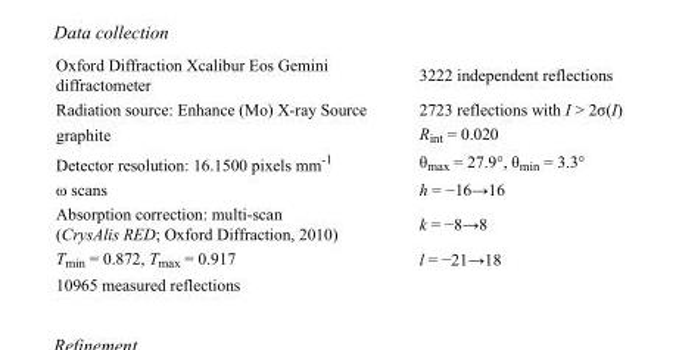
<table><tbody><tr><td>Oxford Diffraction Xcalibur Eos Gemini diffractometer</td><td>3222 independent reflections</td></tr><tr><td>Radiation source: Enhance (Mo) X-ray Source</td><td>2723 reflections with I &gt; 2σ(I)</td></tr><tr><td>graphite</td><td>R<sub>int</sub> = 0.020</td></tr><tr><td>Detector resolution: 16.1500 pixels mm<sup>-1</sup></td><td>θ<sub>max</sub> = 27.9°, θ<sub>min</sub> = 3.3°</td></tr><tr><td>ω scans</td><td>h = −16→16</td></tr><tr><td>Absorption correction: multi-scan (CrysAlis RED; Oxford Diffraction, 2010)</td><td>k = −8→8</td></tr><tr><td>T<sub>min</sub> = 0.872, T<sub>max</sub> = 0.917</td><td>l = −21→18</td></tr><tr><td>10965 measured reflections</td><td></td></tr></tbody></table>